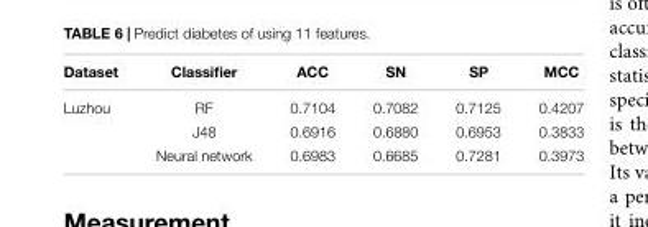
<table><thead><tr><td>Dataset</td><td>Classifier</td><td>ACC</td><td>SN</td><td>SP</td><td>MCC</td></tr></thead><tbody><tr><td rowspan="3">Luzhou</td><td>RF</td><td>0.7104</td><td>0.7082</td><td>0.7125</td><td>0.4207</td></tr><tr><td>J48</td><td>0.6916</td><td>0.6880</td><td>0.6953</td><td>0.3833</td></tr><tr><td>Neural network</td><td>0.6983</td><td>0.6685</td><td>0.7281</td><td>0.3973</td></tr></tbody></table>